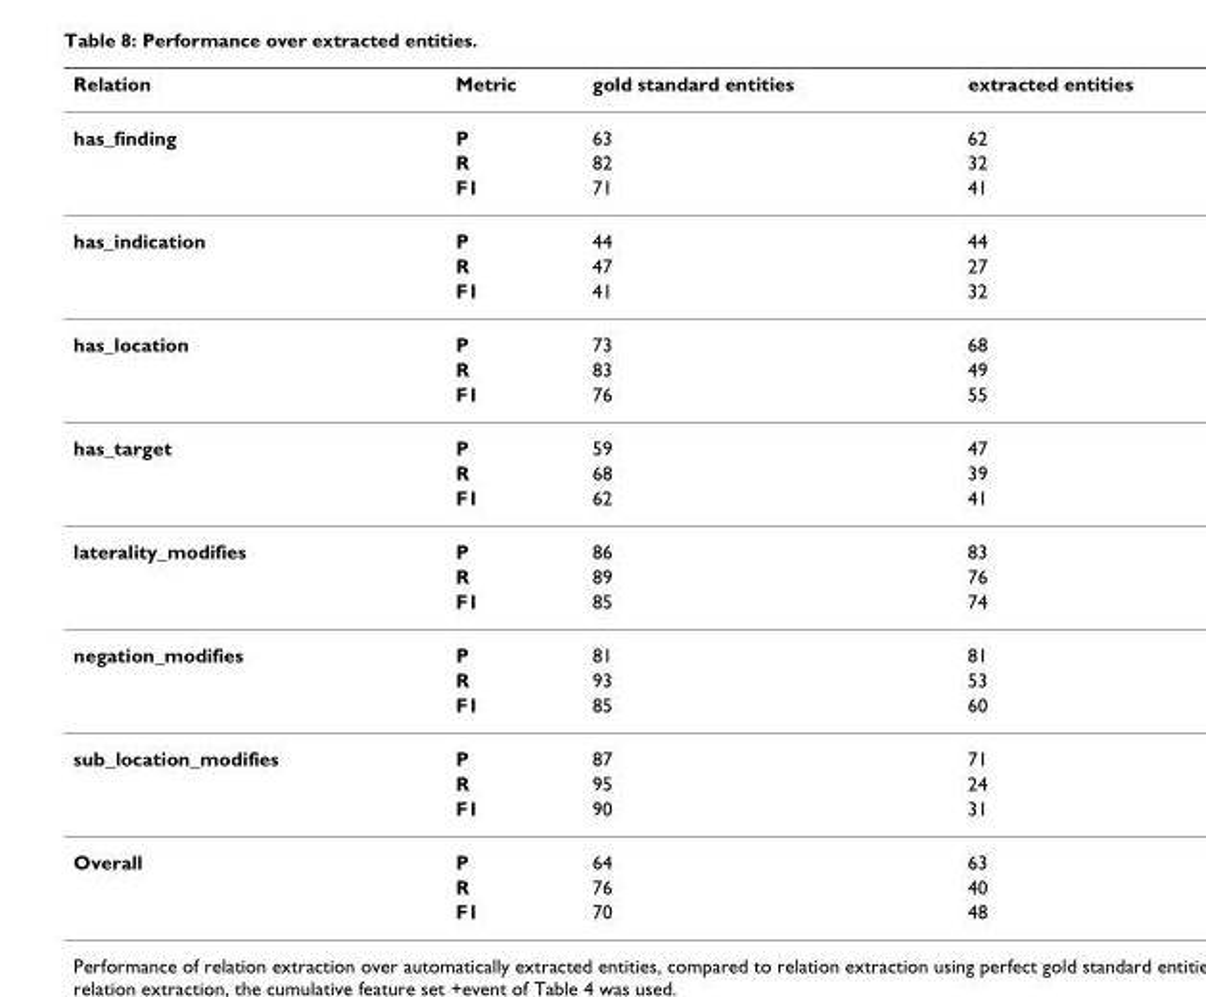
<table><thead><tr><td>Relation</td><td>Metric</td><td>gold standard entities</td><td>extracted entities</td></tr></thead><tbody><tr><td rowspan="3">has_finding</td><td>P</td><td>63</td><td>62</td></tr><tr><td>R</td><td>82</td><td>32</td></tr><tr><td>F1</td><td>71</td><td>41</td></tr><tr><td rowspan="3">has_indication</td><td>P</td><td>44</td><td>44</td></tr><tr><td>R</td><td>47</td><td>27</td></tr><tr><td>F1</td><td>41</td><td>32</td></tr><tr><td rowspan="3">has_location</td><td>P</td><td>73</td><td>68</td></tr><tr><td>R</td><td>83</td><td>49</td></tr><tr><td>F1</td><td>76</td><td>55</td></tr><tr><td rowspan="3">has_target</td><td>P</td><td>59</td><td>47</td></tr><tr><td>R</td><td>68</td><td>39</td></tr><tr><td>F1</td><td>62</td><td>41</td></tr><tr><td rowspan="3">laterality_modifies</td><td>P</td><td>86</td><td>83</td></tr><tr><td>R</td><td>89</td><td>76</td></tr><tr><td>F1</td><td>85</td><td>74</td></tr><tr><td rowspan="3">negation_modifies</td><td>P</td><td>81</td><td>81</td></tr><tr><td>R</td><td>93</td><td>53</td></tr><tr><td>F1</td><td>85</td><td>60</td></tr><tr><td rowspan="3">sub_location_modifies</td><td>P</td><td>87</td><td>71</td></tr><tr><td>R</td><td>95</td><td>24</td></tr><tr><td>F1</td><td>90</td><td>31</td></tr><tr><td rowspan="3">Overall</td><td>P</td><td>64</td><td>63</td></tr><tr><td>R</td><td>76</td><td>40</td></tr><tr><td>F1</td><td>70</td><td>48</td></tr></tbody></table>